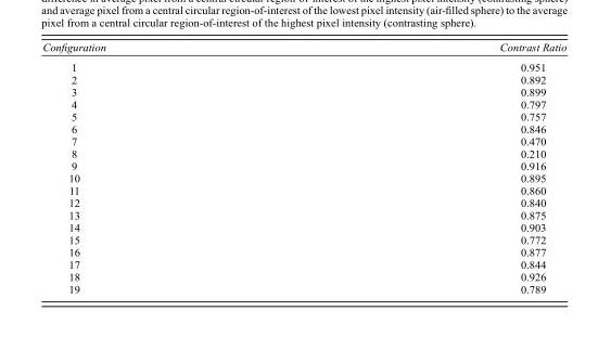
<table><thead><tr><td>Configuration</td><td>Contrast Ratio</td></tr></thead><tbody><tr><td>1</td><td>0.951</td></tr><tr><td>2</td><td>0.892</td></tr><tr><td>3</td><td>0.899</td></tr><tr><td>4</td><td>0.797</td></tr><tr><td>5</td><td>0.757</td></tr><tr><td>6</td><td>0.846</td></tr><tr><td>7</td><td>0.470</td></tr><tr><td>8</td><td>0.210</td></tr><tr><td>9</td><td>0.916</td></tr><tr><td>10</td><td>0.895</td></tr><tr><td>11</td><td>0.860</td></tr><tr><td>12</td><td>0.840</td></tr><tr><td>13</td><td>0.875</td></tr><tr><td>14</td><td>0.903</td></tr><tr><td>15</td><td>0.772</td></tr><tr><td>16</td><td>0.877</td></tr><tr><td>17</td><td>0.844</td></tr><tr><td>18</td><td>0.926</td></tr><tr><td>19</td><td>0.789</td></tr></tbody></table>